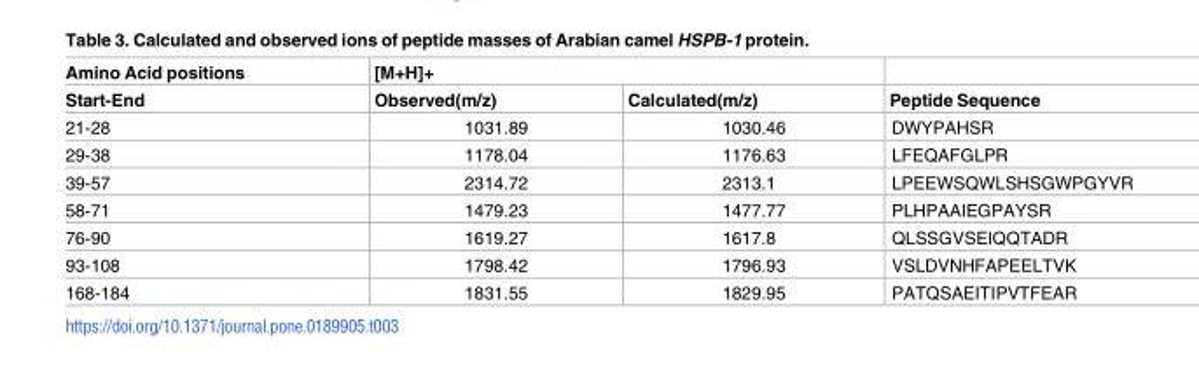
<table><thead><tr><td rowspan="2">Amino Acid positions Start-End</td><td colspan="2">[M+H]+</td><td rowspan="2">Peptide Sequence</td></tr><tr><td>Observed(m/z)</td><td>Calculated(m/z)</td></tr></thead><tbody><tr><td>21-28</td><td>1031.89</td><td>1030.46</td><td>DWYPAHSR</td></tr><tr><td>29-38</td><td>1178.04</td><td>1176.63</td><td>LFEQAFGLPR</td></tr><tr><td>39-57</td><td>2314.72</td><td>2313.1</td><td>LPEEWSQWLSHSGWPGYVR</td></tr><tr><td>58-71</td><td>1479.23</td><td>1477.77</td><td>PLHPAAIEGPAYSR</td></tr><tr><td>76-90</td><td>1619.27</td><td>1617.8</td><td>QLSSGVSEIQQTADR</td></tr><tr><td>93-108</td><td>1798.42</td><td>1796.93</td><td>VSLDVNHFAPEELTVK</td></tr><tr><td>168-184</td><td>1831.55</td><td>1829.95</td><td>PATQSAEITIPVTFEAR</td></tr></tbody></table>